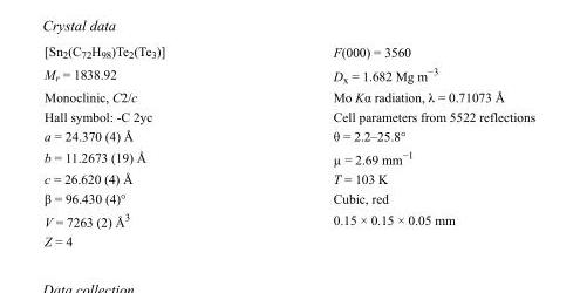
<table><tbody><tr><td>[Sn<sub>2</sub>(C<sub>72</sub>H<sub>98</sub>)Te<sub>2</sub>(Te<sub>3</sub>)]</td><td>F(000) = 3560</td></tr><tr><td>M<sub>r</sub> = 1838.92</td><td>D<sub>x</sub> = 1.682 Mg m<sup>−3</sup></td></tr><tr><td>Monoclinic, C2/c</td><td>Mo Kα radiation, λ = 0.71073 Å</td></tr><tr><td>Hall symbol: -C 2yc</td><td>Cell parameters from 5522 reflections</td></tr><tr><td>a = 24.370 (4) Å</td><td>θ = 2.2–25.8°</td></tr><tr><td>b = 11.2673 (19) Å</td><td>µ = 2.69 mm<sup>−1</sup></td></tr><tr><td>c = 26.620 (4) Å</td><td>T = 103 K</td></tr><tr><td>β = 96.430 (4)°</td><td>Cubic, red</td></tr><tr><td>V = 7263 (2) Å<sup>3</sup></td><td>0.15 × 0.15 × 0.05 mm</td></tr><tr><td>Z = 4</td><td></td></tr></tbody></table>